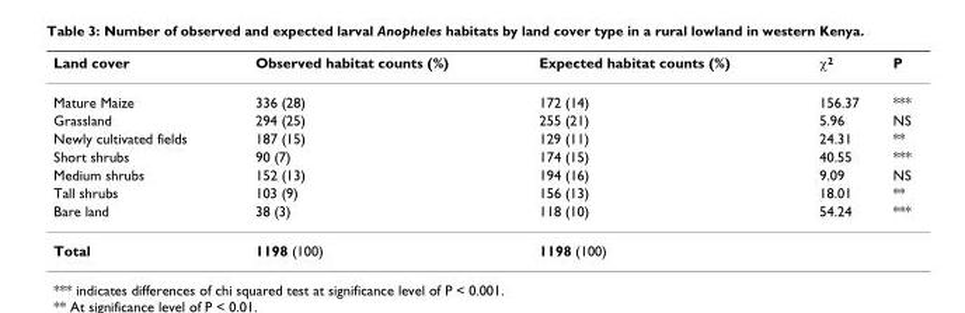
<table><thead><tr><td>Land cover</td><td>Observed habitat counts (%)</td><td>Expected habitat counts (%)</td><td>χ<sup>2</sup></td><td>P</td></tr></thead><tbody><tr><td>Mature Maize</td><td>336 (28)</td><td>172 (14)</td><td>156.37</td><td>***</td></tr><tr><td>Grassland</td><td>294 (25)</td><td>255 (21)</td><td>5.96</td><td>NS</td></tr><tr><td>Newly cultivated fields</td><td>187 (15)</td><td>129 (11)</td><td>24.31</td><td>**</td></tr><tr><td>Short shrubs</td><td>90 (7)</td><td>174 (15)</td><td>40.55</td><td>***</td></tr><tr><td>Medium shrubs</td><td>152 (13)</td><td>194 (16)</td><td>9.09</td><td>NS</td></tr><tr><td>Tall shrubs</td><td>103 (9)</td><td>156 (13)</td><td>18.01</td><td>**</td></tr><tr><td>Bare land</td><td>38 (3)</td><td>118 (10)</td><td>54.24</td><td>***</td></tr><tr><td>Total</td><td>1198 (100)</td><td>1198 (100)</td><td></td><td></td></tr></tbody></table>